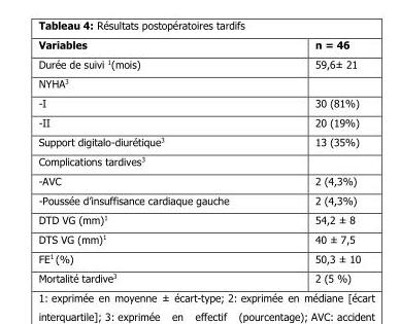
<table><thead><tr><td>Variables</td><td>n = 46</td></tr></thead><tbody><tr><td>Durée de suivi <sup>1</sup>(mois)</td><td>59,6± 21</td></tr><tr><td colspan="2">NYHA<sup>3</sup></td></tr><tr><td>-I</td><td>30 (81%)</td></tr><tr><td>-II</td><td>20 (19%)</td></tr><tr><td>Support digitalo-diurétique<sup>3</sup></td><td>13 (35%)</td></tr><tr><td colspan="2">Complications tardives<sup>3</sup></td></tr><tr><td>-AVC</td><td>2 (4,3%)</td></tr><tr><td>-Poussée d’insuffisance cardiaque gauche</td><td>2 (4,3%)</td></tr><tr><td>DTD VG (mm)<sup>1</sup></td><td>54,2 ± 8</td></tr><tr><td>DTS VG (mm)<sup>1</sup></td><td>40 ± 7,5</td></tr><tr><td>FE<sup>1</sup> (%)</td><td>50,3 ± 10</td></tr><tr><td>Mortalité tardive<sup>3</sup></td><td>2 (5 %)</td></tr></tbody></table>